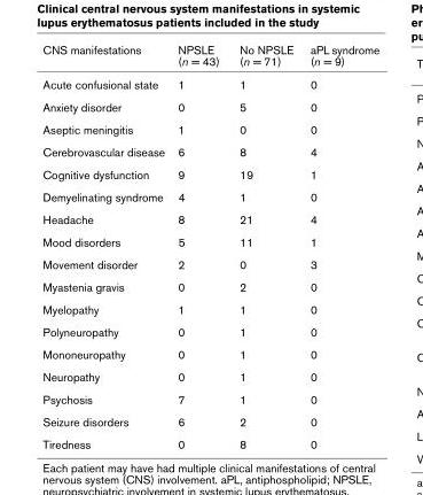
<table><thead><tr><td>CNS manifestations</td><td>NPSLE (n = 43)</td><td>No NPSLE (n = 71)</td><td>aPL syndrome (n = 9)</td></tr></thead><tbody><tr><td>Acute confusional state</td><td>1</td><td>1</td><td>0</td></tr><tr><td>Anxiety disorder</td><td>0</td><td>5</td><td>0</td></tr><tr><td>Aseptic meningitis</td><td>1</td><td>0</td><td>0</td></tr><tr><td>Cerebrovascular disease</td><td>6</td><td>8</td><td>4</td></tr><tr><td>Cognitive dysfunction</td><td>9</td><td>19</td><td>1</td></tr><tr><td>Demyelinating syndrome</td><td>4</td><td>1</td><td>0</td></tr><tr><td>Headache</td><td>8</td><td>21</td><td>4</td></tr><tr><td>Mood disorders</td><td>5</td><td>11</td><td>1</td></tr><tr><td>Movement disorder</td><td>2</td><td>0</td><td>3</td></tr><tr><td>Myastenia gravis</td><td>0</td><td>2</td><td>0</td></tr><tr><td>Myelopathy</td><td>1</td><td>1</td><td>0</td></tr><tr><td>Polyneuropathy</td><td>0</td><td>1</td><td>0</td></tr><tr><td>Mononeuropathy</td><td>0</td><td>1</td><td>0</td></tr><tr><td>Neuropathy</td><td>0</td><td>1</td><td>0</td></tr><tr><td>Psychosis</td><td>7</td><td>1</td><td>0</td></tr><tr><td>Seizure disorders</td><td>6</td><td>2</td><td>0</td></tr><tr><td>Tiredness</td><td>0</td><td>8</td><td>0</td></tr></tbody></table>